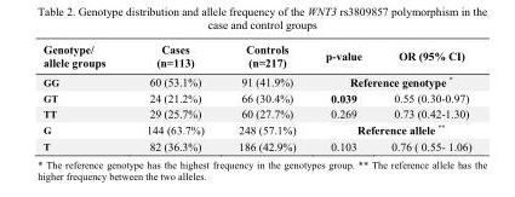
<table><thead><tr><td>Genotype/ allele groups</td><td>Cases (n=113)</td><td>Controls (n=217)</td><td>p-value</td><td>OR (95% CI)</td></tr></thead><tbody><tr><td>GG</td><td>60 (53.1%)</td><td>91 (41.9%)</td><td colspan="2">Reference genotype *</td></tr><tr><td>GT</td><td>24 (21.2%)</td><td>66 (30.4%)</td><td>0.039</td><td>0.55 (0.30-0.97)</td></tr><tr><td>TT</td><td>29 (25.7%)</td><td>60 (27.7%)</td><td>0.269</td><td>0.73 (0.42-1.30)</td></tr><tr><td>G</td><td>144 (63.7%)</td><td>248 (57.1%)</td><td colspan="2">Reference allele **</td></tr><tr><td>T</td><td>82 (36.3%)</td><td>186 (42.9%)</td><td>0.103</td><td>0.76 ( 0.55- 1.06)</td></tr></tbody></table>